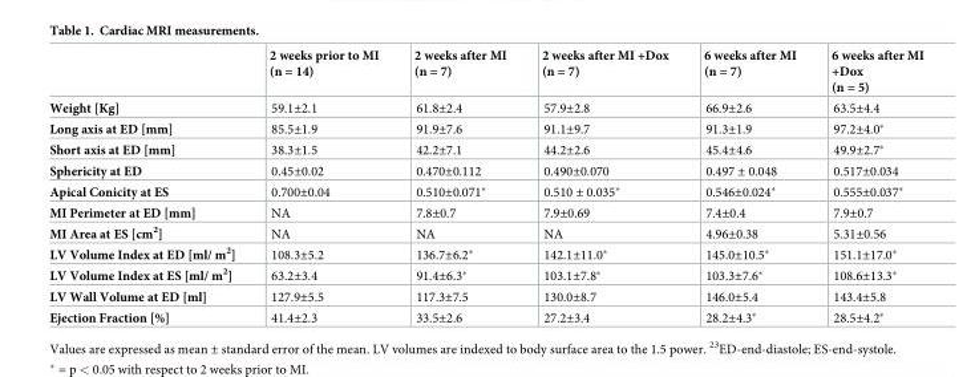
<table><thead><tr><td></td><td>2 weeks prior to MI (n = 14)</td><td>2 weeks after MI (n = 7)</td><td>2 weeks after MI +Dox (n = 7)</td><td>6 weeks after MI (n = 7)</td><td>6 weeks after MI +Dox (n = 5)</td></tr></thead><tbody><tr><td>Weight [Kg]</td><td>59.1±2.1</td><td>61.8±2.4</td><td>57.9±2.8</td><td>66.9±2.6</td><td>63.5±4.4</td></tr><tr><td>Long axis at ED [mm]</td><td>85.5±1.9</td><td>91.9±7.6</td><td>91.1±9.7</td><td>91.3±1.9</td><td>97.2±4.0*</td></tr><tr><td>Short axis at ED [mm]</td><td>38.3±1.5</td><td>42.2±7.1</td><td>44.2±2.6</td><td>45.4±4.6</td><td>49.9±2.7*</td></tr><tr><td>Sphericity at ED</td><td>0.45±0.02</td><td>0.470±0.112</td><td>0.490±0.070</td><td>0.497 ± 0.048</td><td>0.517±0.034</td></tr><tr><td>Apical Conicity at ES</td><td>0.700±0.04</td><td>0.510±0.071*</td><td>0.510 ± 0.035*</td><td>0.546±0.024*</td><td>0.555±0.037*</td></tr><tr><td>MI Perimeter at ED [mm]</td><td>NA</td><td>7.8±0.7</td><td>7.9±0.69</td><td>7.4±0.4</td><td>7.9±0.7</td></tr><tr><td>MI Area at ES [cm<sup>2</sup>]</td><td>NA</td><td>NA</td><td>NA</td><td>4.96±0.38</td><td>5.31±0.56</td></tr><tr><td>LV Volume Index at ED [ml/ m<sup>2</sup>]</td><td>108.3±5.2</td><td>136.7±6.2*</td><td>142.1±11.0*</td><td>145.0±10.5*</td><td>151.1±17.0*</td></tr><tr><td>LV Volume Index at ES [ml/ m<sup>2</sup>]</td><td>63.2±3.4</td><td>91.4±6.3*</td><td>103.1±7.8*</td><td>103.3±7.6*</td><td>108.6±13.3*</td></tr><tr><td>LV Wall Volume at ED [ml]</td><td>127.9±5.5</td><td>117.3±7.5</td><td>130.0±8.7</td><td>146.0±5.4</td><td>143.4±5.8</td></tr><tr><td>Ejection Fraction [%]</td><td>41.4±2.3</td><td>33.5±2.6</td><td>27.2±3.4</td><td>28.2±4.3*</td><td>28.5±4.2*</td></tr></tbody></table>